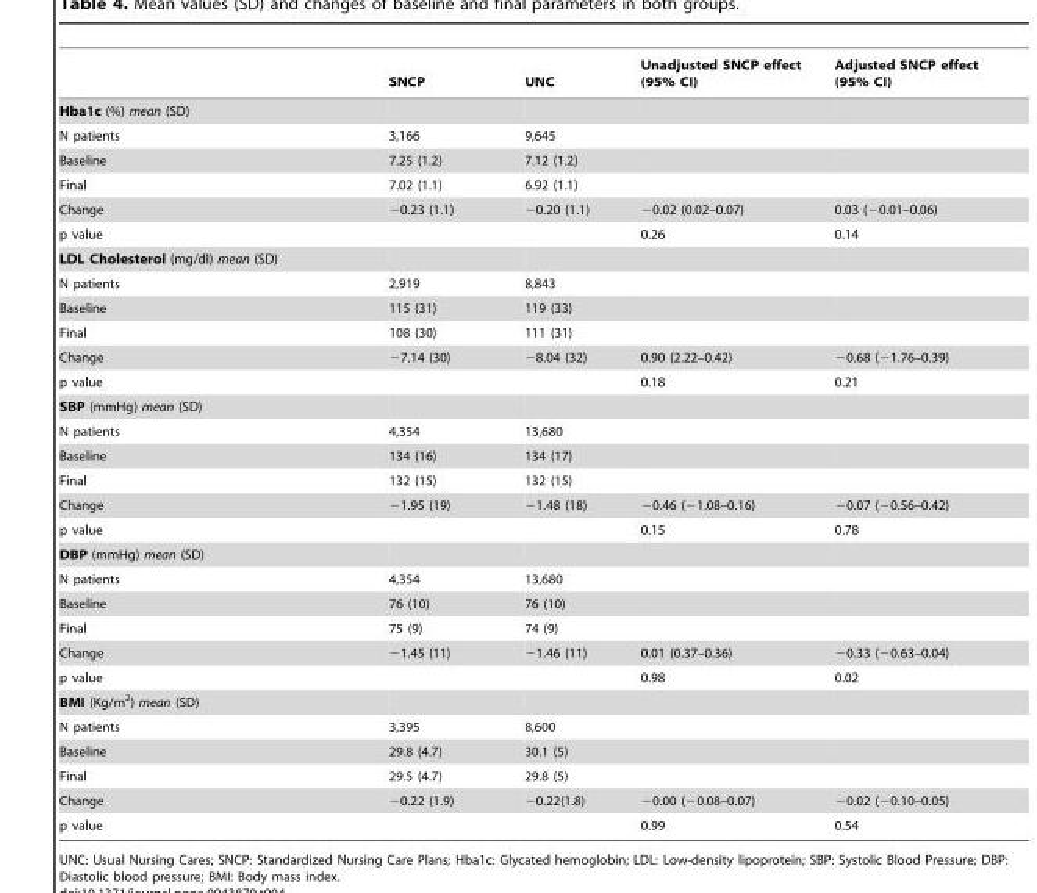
<table><thead><tr><td></td><td>SNCP</td><td>UNC</td><td>Unadjusted SNCP effect (95% CI)</td><td>Adjusted SNCP effect (95% CI)</td></tr></thead><tbody><tr><td colspan="5">Hba1c (%) mean (SD)</td></tr><tr><td>N patients</td><td>3,166</td><td>9,645</td><td></td><td></td></tr><tr><td>Baseline</td><td>7.25 (1.2)</td><td>7.12 (1.2)</td><td></td><td></td></tr><tr><td>Final</td><td>7.02 (1.1)</td><td>6.92 (1.1)</td><td></td><td></td></tr><tr><td>Change</td><td>−0.23 (1.1)</td><td>−0.20 (1.1)</td><td>−0.02 (0.02–0.07)</td><td>0.03 (−0.01–0.06)</td></tr><tr><td>p value</td><td></td><td></td><td>0.26</td><td>0.14</td></tr><tr><td colspan="5">LDL Cholesterol (mg/dl) mean (SD)</td></tr><tr><td>N patients</td><td>2,919</td><td>8,843</td><td></td><td></td></tr><tr><td>Baseline</td><td>115 (31)</td><td>119 (33)</td><td></td><td></td></tr><tr><td>Final</td><td>108 (30)</td><td>111 (31)</td><td></td><td></td></tr><tr><td>Change</td><td>−7.14 (30)</td><td>−8.04 (32)</td><td>0.90 (2.22–0.42)</td><td>−0.68 (−1.76–0.39)</td></tr><tr><td>p value</td><td></td><td></td><td>0.18</td><td>0.21</td></tr><tr><td colspan="5">SBP (mmHg) mean (SD)</td></tr><tr><td>N patients</td><td>4,354</td><td>13,680</td><td></td><td></td></tr><tr><td>Baseline</td><td>134 (16)</td><td>134 (17)</td><td></td><td></td></tr><tr><td>Final</td><td>132 (15)</td><td>132 (15)</td><td></td><td></td></tr><tr><td>Change</td><td>−1.95 (19)</td><td>−1.48 (18)</td><td>−0.46 (−1.08–0.16)</td><td>−0.07 (−0.56–0.42)</td></tr><tr><td>p value</td><td></td><td></td><td>0.15</td><td>0.78</td></tr><tr><td colspan="5">DBP (mmHg) mean (SD)</td></tr><tr><td>N patients</td><td>4,354</td><td>13,680</td><td></td><td></td></tr><tr><td>Baseline</td><td>76 (10)</td><td>76 (10)</td><td></td><td></td></tr><tr><td>Final</td><td>75 (9)</td><td>74 (9)</td><td></td><td></td></tr><tr><td>Change</td><td>−1.45 (11)</td><td>−1.46 (11)</td><td>0.01 (0.37–0.36)</td><td>−0.33 (−0.63–0.04)</td></tr><tr><td>p value</td><td></td><td></td><td>0.98</td><td>0.02</td></tr><tr><td colspan="5">BMI (Kg/m<sup>2</sup>) mean (SD)</td></tr><tr><td>N patients</td><td>3,395</td><td>8,600</td><td></td><td></td></tr><tr><td>Baseline</td><td>29.8 (4.7)</td><td>30.1 (5)</td><td></td><td></td></tr><tr><td>Final</td><td>29.5 (4.7)</td><td>29.8 (5)</td><td></td><td></td></tr><tr><td>Change</td><td>−0.22 (1.9)</td><td>−0.22(1.8)</td><td>−0.00 (−0.08–0.07)</td><td>−0.02 (−0.10–0.05)</td></tr><tr><td>p value</td><td></td><td></td><td>0.99</td><td>0.54</td></tr></tbody></table>